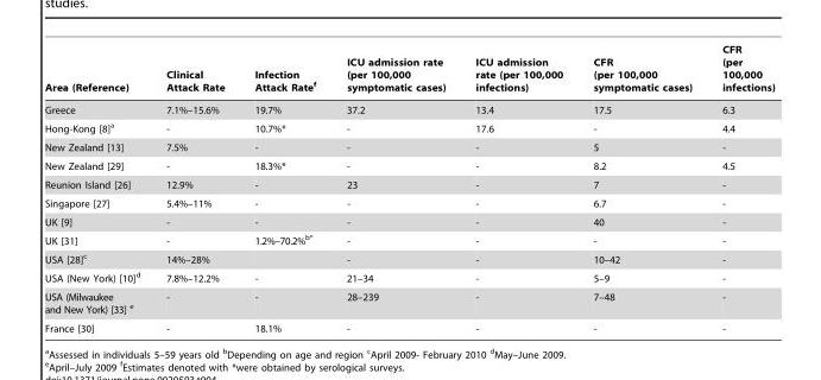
<table><thead><tr><td>Area (Reference)</td><td>Clinical Attack Rate</td><td>Infection Attack Rate<sup>f</sup></td><td>ICU admission rate (per 100,000 symptomatic cases)</td><td>ICU admission rate (per 100,000 infections)</td><td>CFR (per 100,000 symptomatic cases)</td><td>CFR (per 100,000 infections)</td></tr></thead><tbody><tr><td>Greece</td><td>7.1%–15.6%</td><td>19.7%</td><td>37.2</td><td>13.4</td><td>17.5</td><td>6.3</td></tr><tr><td>Hong-Kong [8]a</td><td>-</td><td>10.7%*</td><td>-</td><td>17.6</td><td>-</td><td>4.4</td></tr><tr><td>New Zealand [13]</td><td>7.5%</td><td>-</td><td>-</td><td>-</td><td>5</td><td>-</td></tr><tr><td>New Zealand [29]</td><td>-</td><td>18.3%*</td><td>-</td><td>-</td><td>8.2</td><td>4.5</td></tr><tr><td>Reunion Island [26]</td><td>12.9%</td><td>-</td><td>23</td><td>-</td><td>7</td><td>-</td></tr><tr><td>Singapore [27]</td><td>5.4%–11%</td><td>-</td><td>-</td><td>-</td><td>6.7</td><td>-</td></tr><tr><td>UK [9]</td><td>-</td><td>-</td><td>-</td><td>-</td><td>40</td><td>-</td></tr><tr><td>UK [31]</td><td>-</td><td>1.2%–70.2%<sup>b*</sup></td><td>-</td><td>-</td><td>-</td><td>-</td></tr><tr><td>USA [28]<sup>c</sup></td><td>14%–28%</td><td></td><td>-</td><td>-</td><td>10–42</td><td>-</td></tr><tr><td>USA (New York) [10]<sup>d</sup></td><td>7.8%–12.2%</td><td>-</td><td>21–34</td><td>-</td><td>5–9</td><td>-</td></tr><tr><td>USA (Milwaukee and New York) [33] e</td><td>-</td><td>-</td><td>28–239</td><td>-</td><td>7–48</td><td>-</td></tr><tr><td>France [30]</td><td>-</td><td>18.1%</td><td>-</td><td>-</td><td>-</td><td>-</td></tr></tbody></table>